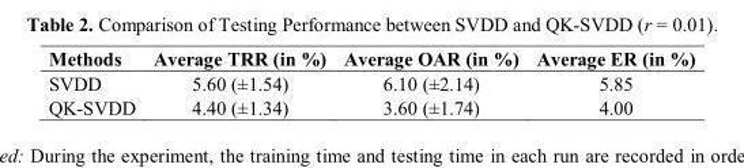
<table><thead><tr><td>Methods</td><td>Average TRR (in %)</td><td>Average OAR (in %)</td><td>Average ER (in %)</td></tr></thead><tbody><tr><td>SVDD</td><td>5.60 (±1.54)</td><td>6.10 (±2.14)</td><td>5.85</td></tr><tr><td>QK-SVDD</td><td>4.40 (±1.34)</td><td>3.60 (±1.74)</td><td>4.00</td></tr></tbody></table>